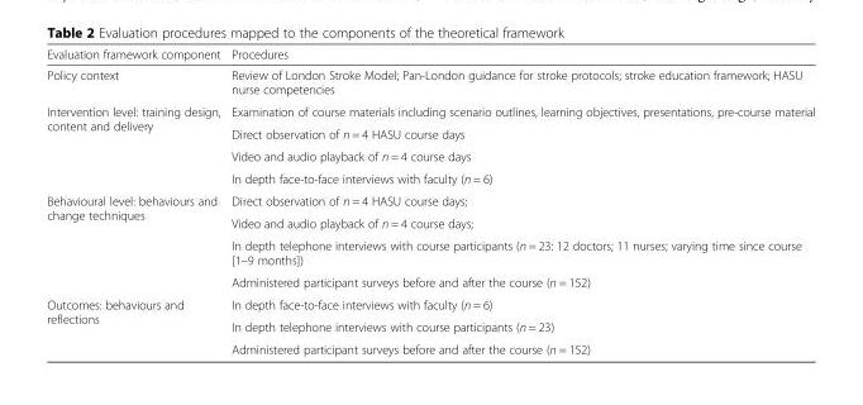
<table><thead><tr><td>Evaluation framework component</td><td>Procedures</td></tr></thead><tbody><tr><td>Policy context</td><td>Review of London Stroke Model; Pan-London guidance for stroke protocols; stroke education framework; HASU nurse competencies</td></tr><tr><td rowspan="4">Intervention level: training design, content and delivery</td><td>Examination of course materials including scenario outlines, learning objectives, presentations, pre-course material</td></tr><tr><td>Direct observation of n = 4 HASU course days</td></tr><tr><td>Video and audio playback of n = 4 course days</td></tr><tr><td>In depth face-to-face interviews with faculty (n = 6)</td></tr><tr><td rowspan="4">Behavioural level: behaviours and change techniques</td><td>Direct observation of n = 4 HASU course days;</td></tr><tr><td>Video and audio playback of n = 4 course days;</td></tr><tr><td>In depth telephone interviews with course participants (n = 23: 12 doctors; 11 nurses; varying time since course [1–9 months])</td></tr><tr><td>Administered participant surveys before and after the course (n = 152)</td></tr><tr><td rowspan="3">Outcomes: behaviours and reflections</td><td>In depth face-to-face interviews with faculty (n = 6)</td></tr><tr><td>In depth telephone interviews with course participants (n = 23)</td></tr><tr><td>Administered participant surveys before and after the course (n = 152)</td></tr></tbody></table>